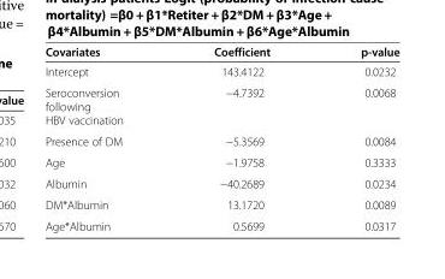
<table><thead><tr><td>Covariates</td><td>Coefficient</td><td>p-value</td></tr></thead><tbody><tr><td>Intercept</td><td>143.4122</td><td>0.0232</td></tr><tr><td>Seroconversion following HBV vaccination</td><td>−4.7392</td><td>0.0068</td></tr><tr><td>Presence of DM</td><td>−5.3569</td><td>0.0084</td></tr><tr><td>Age</td><td>−1.9758</td><td>0.3333</td></tr><tr><td>Albumin</td><td>−40.2689</td><td>0.0234</td></tr><tr><td>DM*Albumin</td><td>13.1720</td><td>0.0089</td></tr><tr><td>Age*Albumin</td><td>0.5699</td><td>0.0317</td></tr></tbody></table>